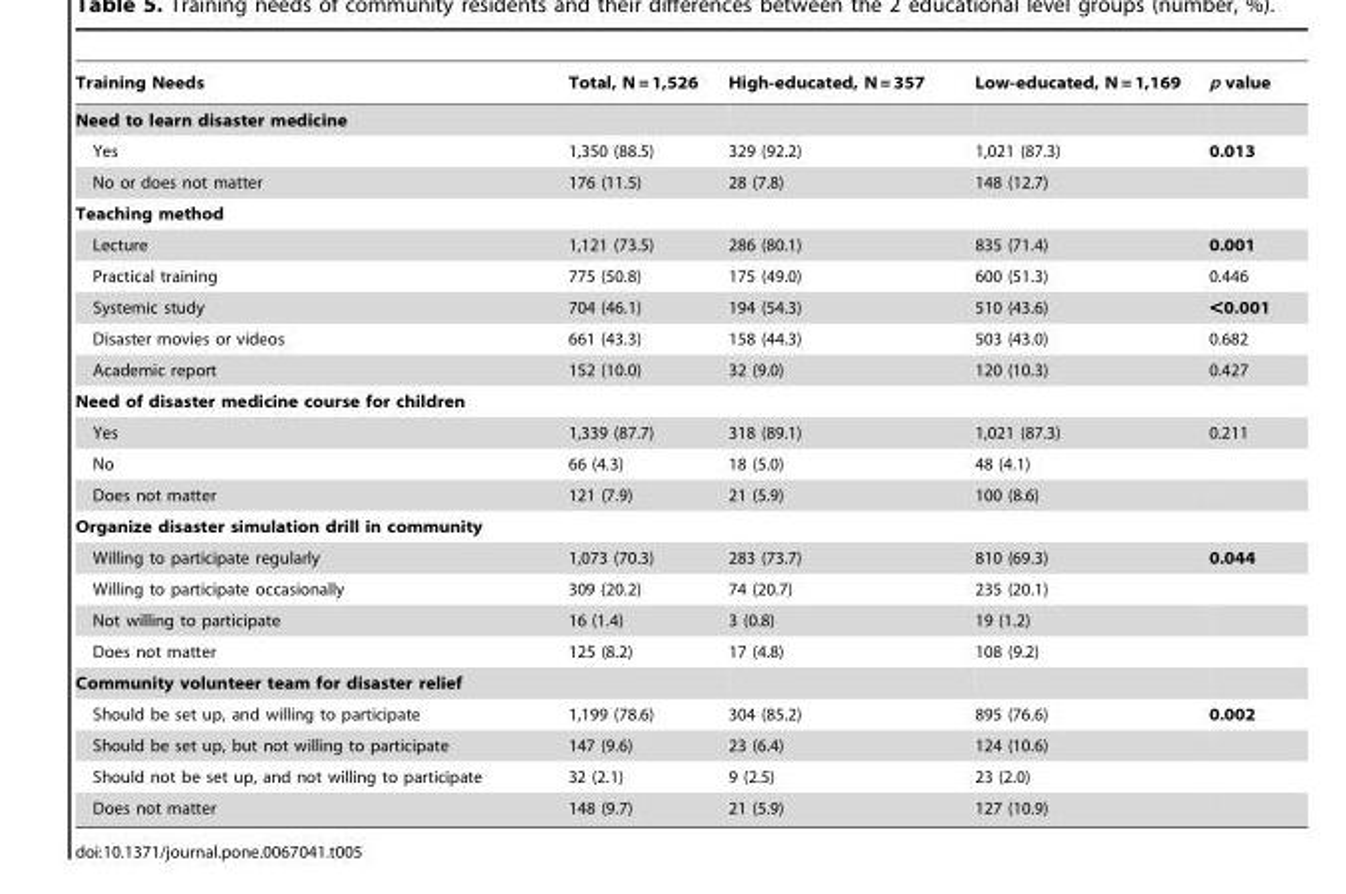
<table><thead><tr><td>Training Needs</td><td>Total, N = 1,526</td><td>High-educated, N = 357</td><td>Low-educated, N = 1,169</td><td>p value</td></tr></thead><tbody><tr><td colspan="5">Need to learn disaster medicine</td></tr><tr><td>Yes</td><td>1,350 (88.5)</td><td>329 (92.2)</td><td>1,021 (87.3)</td><td>0.013</td></tr><tr><td>No or does not matter</td><td>176 (11.5)</td><td>28 (7.8)</td><td>148 (12.7)</td><td></td></tr><tr><td colspan="5">Teaching method</td></tr><tr><td>Lecture</td><td>1,121 (73.5)</td><td>286 (80.1)</td><td>835 (71.4)</td><td>0.001</td></tr><tr><td>Practical training</td><td>775 (50.8)</td><td>175 (49.0)</td><td>600 (51.3)</td><td>0.446</td></tr><tr><td>Systemic study</td><td>704 (46.1)</td><td>194 (54.3)</td><td>510 (43.6)</td><td>&lt;0.001</td></tr><tr><td>Disaster movies or videos</td><td>661 (43.3)</td><td>158 (44.3)</td><td>503 (43.0)</td><td>0.682</td></tr><tr><td>Academic report</td><td>152 (10.0)</td><td>32 (9.0)</td><td>120 (10.3)</td><td>0.427</td></tr><tr><td colspan="5">Need of disaster medicine course for children</td></tr><tr><td>Yes</td><td>1,339 (87.7)</td><td>318 (89.1)</td><td>1,021 (87.3)</td><td>0.211</td></tr><tr><td>No</td><td>66 (4.3)</td><td>18 (5.0)</td><td>48 (4.1)</td><td></td></tr><tr><td>Does not matter</td><td>121 (7.9)</td><td>21 (5.9)</td><td>100 (8.6)</td><td></td></tr><tr><td colspan="5">Organize disaster simulation drill in community</td></tr><tr><td>Willing to participate regularly</td><td>1,073 (70.3)</td><td>283 (73.7)</td><td>810 (69.3)</td><td>0.044</td></tr><tr><td>Willing to participate occasionally</td><td>309 (20.2)</td><td>74 (20.7)</td><td>235 (20.1)</td><td></td></tr><tr><td>Not willing to participate</td><td>16 (1.4)</td><td>3 (0.8)</td><td>19 (1.2)</td><td></td></tr><tr><td>Does not matter</td><td>125 (8.2)</td><td>17 (4.8)</td><td>108 (9.2)</td><td></td></tr><tr><td colspan="5">Community volunteer team for disaster relief</td></tr><tr><td>Should be set up, and willing to participate</td><td>1,199 (78.6)</td><td>304 (85.2)</td><td>895 (76.6)</td><td>0.002</td></tr><tr><td>Should be set up, but not willing to participate</td><td>147 (9.6)</td><td>23 (6.4)</td><td>124 (10.6)</td><td></td></tr><tr><td>Should not be set up, and not willing to participate</td><td>32 (2.1)</td><td>9 (2.5)</td><td>23 (2.0)</td><td></td></tr><tr><td>Does not matter</td><td>148 (9.7)</td><td>21 (5.9)</td><td>127 (10.9)</td><td></td></tr></tbody></table>